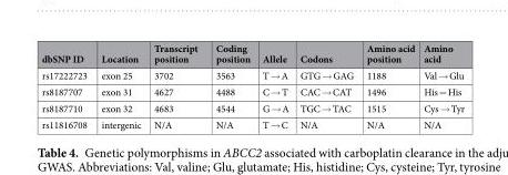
<table><thead><tr><td>dbSNP ID</td><td>Location</td><td>Transcript position</td><td>Coding position</td><td>Allele</td><td>Codons</td><td>Amino acid position</td><td>Amino acid</td></tr></thead><tbody><tr><td>rs17222723</td><td>exon 25</td><td>3702</td><td>3563</td><td>T → A</td><td>GTG → GAG</td><td>1188</td><td>Val → Glu</td></tr><tr><td>rs8187707</td><td>exon 31</td><td>4627</td><td>4488</td><td>C → T</td><td>CAC → CAT</td><td>1496</td><td>His = His</td></tr><tr><td>rs8187710</td><td>exon 32</td><td>4683</td><td>4544</td><td>G → A</td><td>TGC → TAC</td><td>1515</td><td>Cys → Tyr</td></tr><tr><td>rs11816708</td><td>intergenic</td><td>N/A</td><td>N/A</td><td>T → C</td><td>N/A</td><td>N/A</td><td>N/A</td></tr></tbody></table>